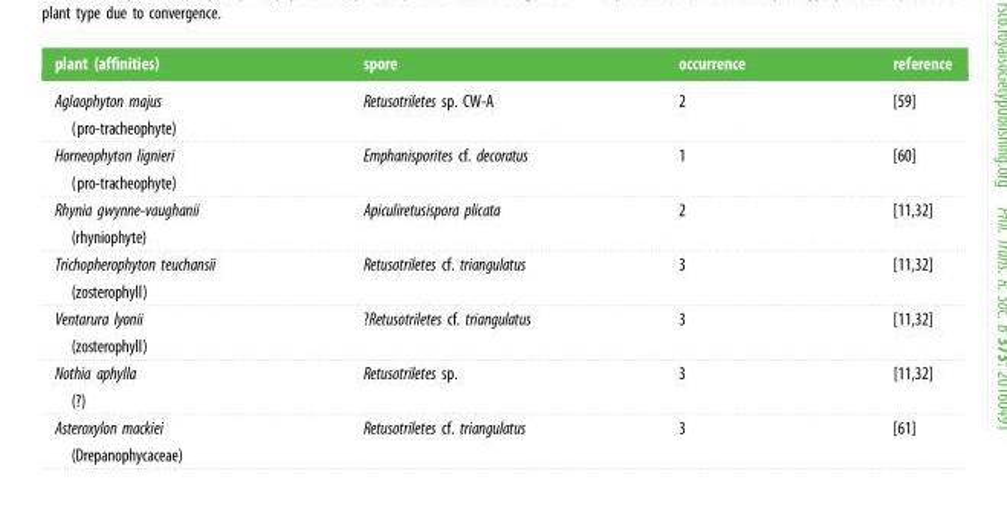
<table><thead><tr><td>plant (affinities)</td><td>spore</td><td>occurrence</td><td>reference</td></tr></thead><tbody><tr><td>Aglaophyton majus (pro-tracheophyte)</td><td>Retusotriletes sp. CW-A</td><td>2</td><td>[59]</td></tr><tr><td>Horneophyton lignieri (pro-tracheophyte)</td><td>Emphanisporites cf. decoratus</td><td>1</td><td>[60]</td></tr><tr><td>Rhynia gwynne-vaughanii (rhyniophyte)</td><td>Apiculiretusispora plicata</td><td>2</td><td>[11,32]</td></tr><tr><td>Trichopherophyton teuchansii (zosterophyll)</td><td>Retusotriletes cf. triangulatus</td><td>3</td><td>[11,32]</td></tr><tr><td>Ventarura lyonii (zosterophyll)</td><td>?Retusotriletes cf. triangulatus</td><td>3</td><td>[11,32]</td></tr><tr><td>Nothia aphylla (?)</td><td>Retusotriletes sp.</td><td>3</td><td>[11,32]</td></tr><tr><td>Asteroxylon mackiei (Drepanophycaceae)</td><td>Retusotriletes cf. triangulatus</td><td>3</td><td>[61]</td></tr></tbody></table>